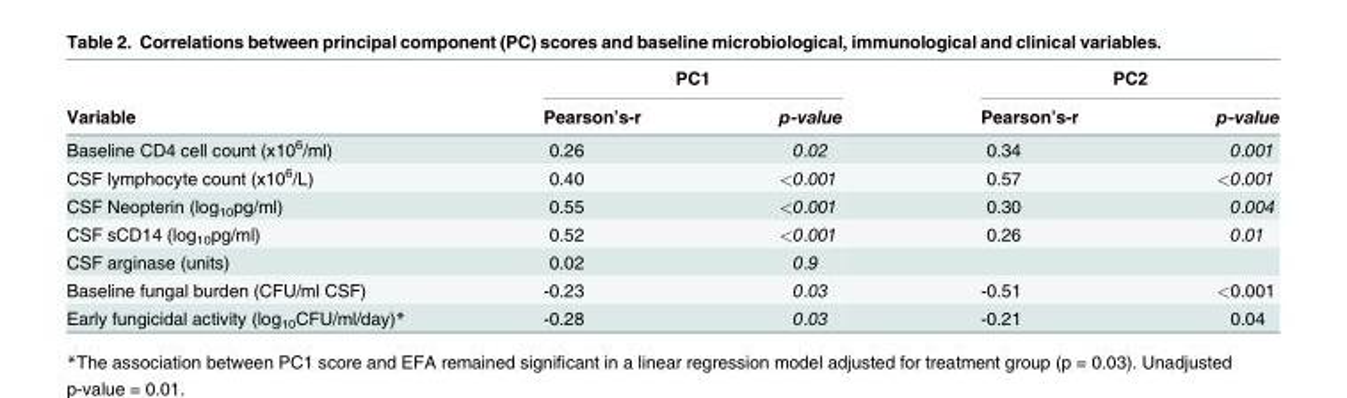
<table><thead><tr><td rowspan="2">Variable</td><td colspan="2">PC1</td><td colspan="2">PC2</td></tr><tr><td>Pearson’s-r</td><td>p-value</td><td>Pearson’s-r</td><td>p-value</td></tr></thead><tbody><tr><td>Baseline CD4 cell count (x10<sup>6</sup>/ml)</td><td>0.26</td><td>0.02</td><td>0.34</td><td>0.001</td></tr><tr><td>CSF lymphocyte count (x10<sup>6</sup>/L)</td><td>0.40</td><td>&lt;0.001</td><td>0.57</td><td>&lt;0.001</td></tr><tr><td>CSF Neopterin (log<sub>10</sub>pg/ml)</td><td>0.55</td><td>&lt;0.001</td><td>0.30</td><td>0.004</td></tr><tr><td>CSF sCD14 (log<sub>10</sub>pg/ml)</td><td>0.52</td><td>&lt;0.001</td><td>0.26</td><td>0.01</td></tr><tr><td>CSF arginase (units)</td><td>0.02</td><td>0.9</td><td></td><td></td></tr><tr><td>Baseline fungal burden (CFU/ml CSF)</td><td>-0.23</td><td>0.03</td><td>-0.51</td><td>&lt;0.001</td></tr><tr><td>Early fungicidal activity (log<sub>10</sub>CFU/ml/day)*</td><td>-0.28</td><td>0.03</td><td>-0.21</td><td>0.04</td></tr></tbody></table>